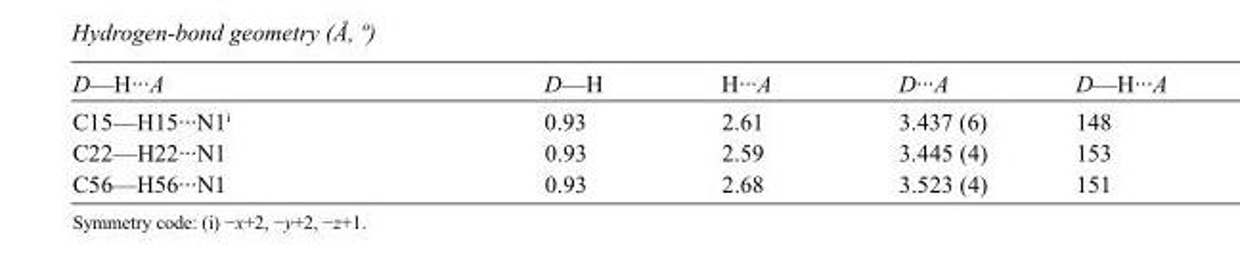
<table><tbody><tr><td>D—H···A</td><td>D—H</td><td>H···A</td><td>D···A</td><td>D—H···A</td></tr><tr><td>C15—H15···N1<sup>i</sup></td><td>0.93</td><td>2.61</td><td>3.437 (6)</td><td>148</td></tr><tr><td>C22—H22···N1</td><td>0.93</td><td>2.59</td><td>3.445 (4)</td><td>153</td></tr><tr><td>C56—H56···N1</td><td>0.93</td><td>2.68</td><td>3.523 (4)</td><td>151</td></tr></tbody></table>